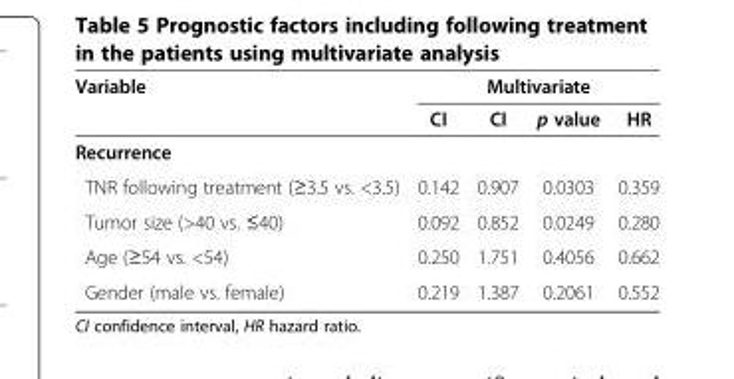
<table><thead><tr><td rowspan="2">Variable</td><td colspan="4">Multivariate</td></tr><tr><td>CI</td><td>CI</td><td>p value</td><td>HR</td></tr></thead><tbody><tr><td colspan="5">Recurrence</td></tr><tr><td>TNR following treatment (≥3.5 vs. &lt;3.5)</td><td>0.142</td><td>0.907</td><td>0.0303</td><td>0.359</td></tr><tr><td>Tumor size (&gt;40 vs. ≤40)</td><td>0.092</td><td>0.852</td><td>0.0249</td><td>0.280</td></tr><tr><td>Age (≥54 vs. &lt;54)</td><td>0.250</td><td>1.751</td><td>0.4056</td><td>0.662</td></tr><tr><td>Gender (male vs. female)</td><td>0.219</td><td>1.387</td><td>0.2061</td><td>0.552</td></tr></tbody></table>